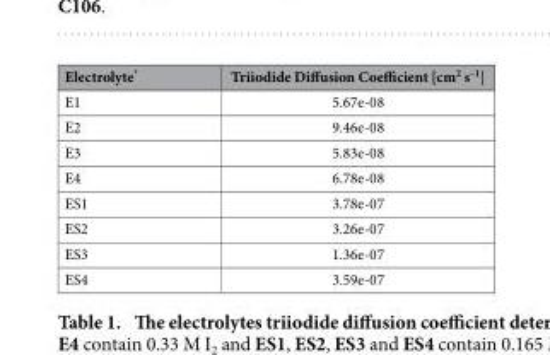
<table><thead><tr><td>Electrolyte*</td><td>Triiodide Diffusion Coefficient [cm<sup>2</sup> s<sup>–1</sup>]</td></tr></thead><tbody><tr><td>E1</td><td>5.67e-08</td></tr><tr><td>E2</td><td>9.46e-08</td></tr><tr><td>E3</td><td>5.83e-08</td></tr><tr><td>E4</td><td>6.78e-08</td></tr><tr><td>ES1</td><td>3.78e-07</td></tr><tr><td>ES2</td><td>3.26e-07</td></tr><tr><td>ES3</td><td>1.36e-07</td></tr><tr><td>ES4</td><td>3.59e-07</td></tr></tbody></table>